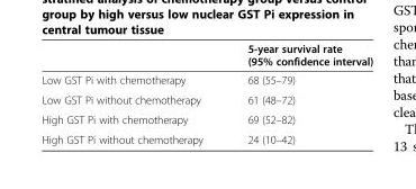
<table><thead><tr><td></td><td>5-year survival rate (95% confidence interval)</td></tr></thead><tbody><tr><td>Low GST Pi with chemotherapy</td><td>68 (55–79)</td></tr><tr><td>Low GST Pi without chemotherapy</td><td>61 (48–72)</td></tr><tr><td>High GST Pi with chemotherapy</td><td>69 (52–82)</td></tr><tr><td>High GST Pi without chemotherapy</td><td>24 (10–42)</td></tr></tbody></table>